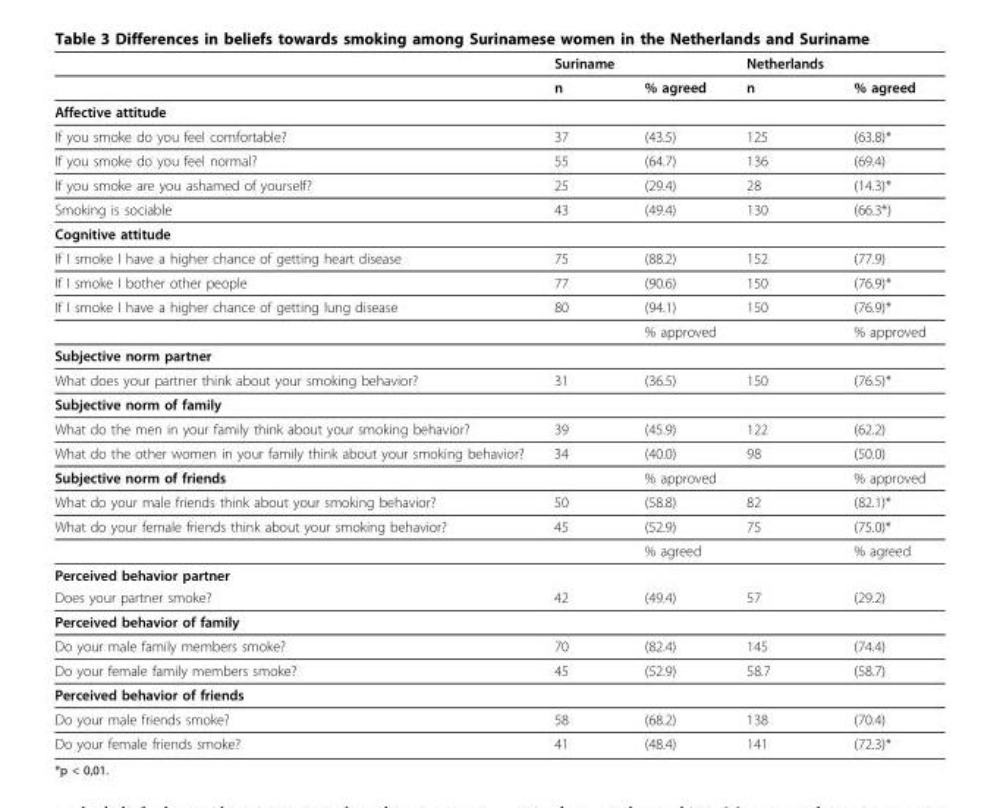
<table><thead><tr><td></td><td>Suriname</td><td></td><td>Netherlands</td><td></td></tr></thead><tbody><tr><td></td><td>n</td><td>% agreed</td><td>n</td><td>% agreed</td></tr><tr><td colspan="5">Affective attitude</td></tr><tr><td>If you smoke do you feel comfortable?</td><td>37</td><td>(43.5)</td><td>125</td><td>(63.8)*</td></tr><tr><td>If you smoke do you feel normal?</td><td>55</td><td>(64.7)</td><td>136</td><td>(69.4)</td></tr><tr><td>If you smoke are you ashamed of yourself?</td><td>25</td><td>(29.4)</td><td>28</td><td>(14.3)*</td></tr><tr><td>Smoking is sociable</td><td>43</td><td>(49.4)</td><td>130</td><td>(66.3*)</td></tr><tr><td colspan="5">Cognitive attitude</td></tr><tr><td>If I smoke I have a higher chance of getting heart disease</td><td>75</td><td>(88.2)</td><td>152</td><td>(77.9)</td></tr><tr><td>If I smoke I bother other people</td><td>77</td><td>(90.6)</td><td>150</td><td>(76.9)*</td></tr><tr><td rowspan="2">If I smoke I have a higher chance of getting lung disease</td><td>80</td><td>(94.1)</td><td>150</td><td>(76.9)*</td></tr><tr><td></td><td>% approved</td><td></td><td>% approved</td></tr><tr><td colspan="5">Subjective norm partner</td></tr><tr><td>What does your partner think about your smoking behavior?</td><td>31</td><td>(36.5)</td><td>150</td><td>(76.5)*</td></tr><tr><td colspan="5">Subjective norm of family</td></tr><tr><td>What do the men in your family think about your smoking behavior?</td><td>39</td><td>(45.9)</td><td>122</td><td>(62.2)</td></tr><tr><td>What do the other women in your family think about your smoking behavior?</td><td>34</td><td>(40.0)</td><td>98</td><td>(50.0)</td></tr><tr><td>Subjective norm of friends</td><td></td><td>% approved</td><td></td><td>% approved</td></tr><tr><td>What do your male friends think about your smoking behavior?</td><td>50</td><td>(58.8)</td><td>82</td><td>(82.1)*</td></tr><tr><td rowspan="2">What do your female friends think about your smoking behavior?</td><td>45</td><td>(52.9)</td><td>75</td><td>(75.0)*</td></tr><tr><td></td><td>% agreed</td><td></td><td>% agreed</td></tr><tr><td colspan="5">Perceived behavior partner</td></tr><tr><td>Does your partner smoke?</td><td>42</td><td>(49.4)</td><td>57</td><td>(29.2)</td></tr><tr><td colspan="5">Perceived behavior of family</td></tr><tr><td>Do your male family members smoke?</td><td>70</td><td>(82.4)</td><td>145</td><td>(74.4)</td></tr><tr><td>Do your female family members smoke?</td><td>45</td><td>(52.9)</td><td>58.7</td><td>(58.7)</td></tr><tr><td colspan="5">Perceived behavior of friends</td></tr><tr><td>Do your male friends smoke?</td><td>58</td><td>(68.2)</td><td>138</td><td>(70.4)</td></tr><tr><td>Do your female friends smoke?</td><td>41</td><td>(48.4)</td><td>141</td><td>(72.3)*</td></tr></tbody></table>